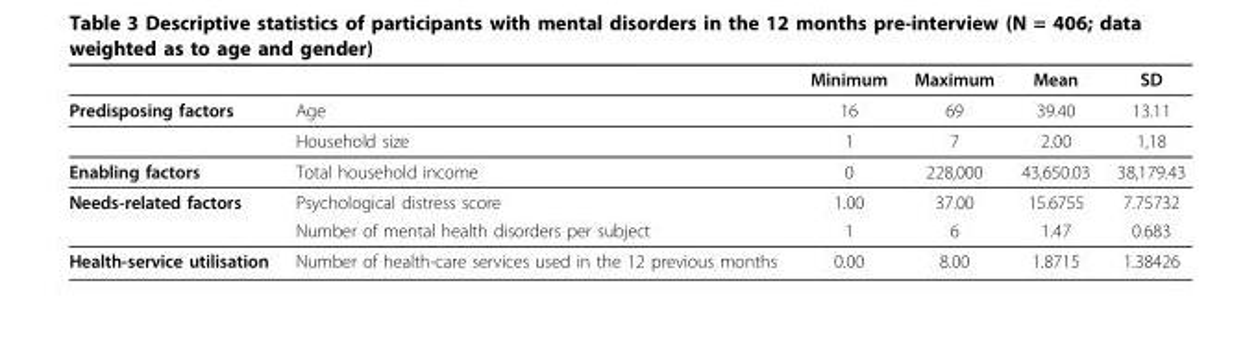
<table><thead><tr><td></td><td></td><td>Minimum</td><td>Maximum</td><td>Mean</td><td>SD</td></tr></thead><tbody><tr><td rowspan="2">Predisposing factors</td><td>Age</td><td>16</td><td>69</td><td>39.40</td><td>13.11</td></tr><tr><td>Household size</td><td>1</td><td>7</td><td>2.00</td><td>1,18</td></tr><tr><td>Enabling factors</td><td>Total household income</td><td>0</td><td>228,000</td><td>43,650.03</td><td>38,179.43</td></tr><tr><td rowspan="2">Needs-related factors</td><td>Psychological distress score</td><td>1.00</td><td>37.00</td><td>15.6755</td><td>7.75732</td></tr><tr><td>Number of mental health disorders per subject</td><td>1</td><td>6</td><td>1.47</td><td>0.683</td></tr><tr><td>Health-service utilisation</td><td>Number of health-care services used in the 12 previous months</td><td>0.00</td><td>8.00</td><td>1.8715</td><td>1.38426</td></tr></tbody></table>